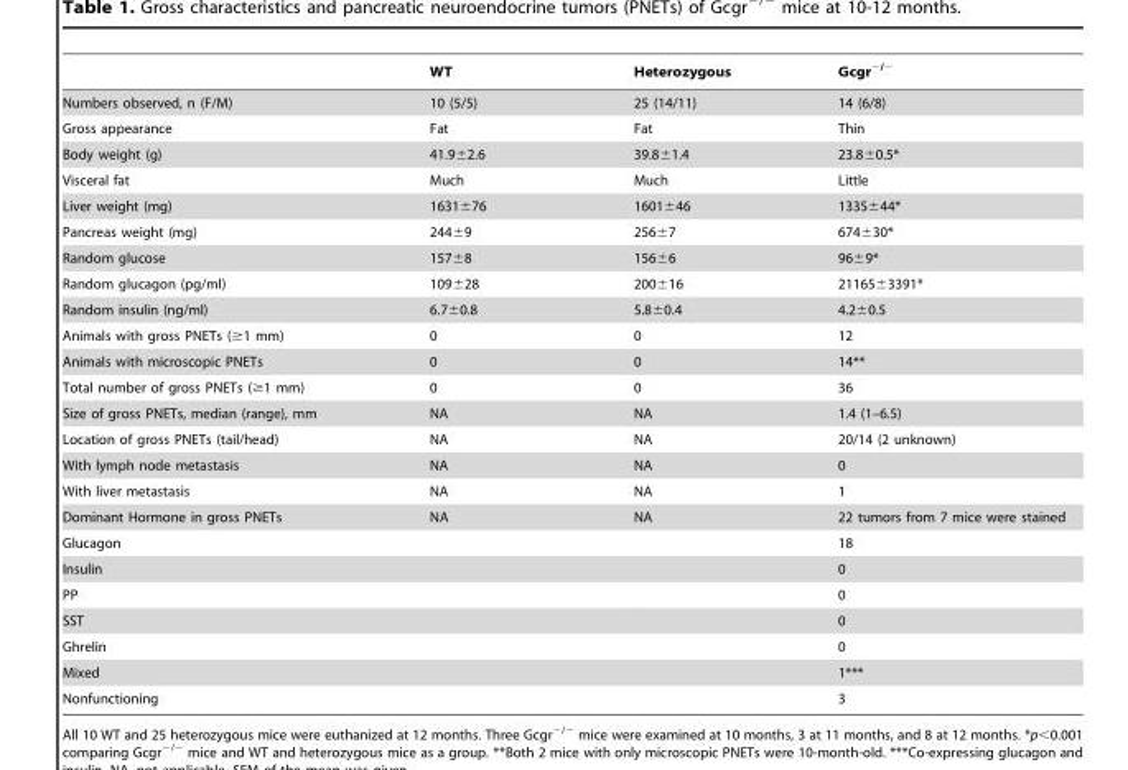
<table><thead><tr><td></td><td>WT</td><td>Heterozygous</td><td>Gcgr<sup>−/−</sup></td></tr></thead><tbody><tr><td>Numbers observed, n (F/M)</td><td>10 (5/5)</td><td>25 (14/11)</td><td>14 (6/8)</td></tr><tr><td>Gross appearance</td><td>Fat</td><td>Fat</td><td>Thin</td></tr><tr><td>Body weight (g)</td><td>41.9±2.6</td><td>39.8±1.4</td><td>23.8±0.5*</td></tr><tr><td>Visceral fat</td><td>Much</td><td>Much</td><td>Little</td></tr><tr><td>Liver weight (mg)</td><td>1631±76</td><td>1601±46</td><td>1335±44*</td></tr><tr><td>Pancreas weight (mg)</td><td>244±9</td><td>256±7</td><td>674±30*</td></tr><tr><td>Random glucose</td><td>157±8</td><td>156±6</td><td>96±9*</td></tr><tr><td>Random glucagon (pg/ml)</td><td>109±28</td><td>200±16</td><td>21165±3391*</td></tr><tr><td>Random insulin (ng/ml)</td><td>6.7±0.8</td><td>5.8±0.4</td><td>4.2±0.5</td></tr><tr><td>Animals with gross PNETs (≥1 mm)</td><td>0</td><td>0</td><td>12</td></tr><tr><td>Animals with microscopic PNETs</td><td>0</td><td>0</td><td>14**</td></tr><tr><td>Total number of gross PNETs (≥1 mm)</td><td>0</td><td>0</td><td>36</td></tr><tr><td>Size of gross PNETs, median (range), mm</td><td>NA</td><td>NA</td><td>1.4 (1–6.5)</td></tr><tr><td>Location of gross PNETs (tail/head)</td><td>NA</td><td>NA</td><td>20/14 (2 unknown)</td></tr><tr><td>With lymph node metastasis</td><td>NA</td><td>NA</td><td>0</td></tr><tr><td>With liver metastasis</td><td>NA</td><td>NA</td><td>1</td></tr><tr><td>Dominant Hormone in gross PNETs</td><td>NA</td><td>NA</td><td>22 tumors from 7 mice were stained</td></tr><tr><td>Glucagon</td><td></td><td></td><td>18</td></tr><tr><td>Insulin</td><td></td><td></td><td>0</td></tr><tr><td>PP</td><td></td><td></td><td>0</td></tr><tr><td>SST</td><td></td><td></td><td>0</td></tr><tr><td>Ghrelin</td><td></td><td></td><td>0</td></tr><tr><td>Mixed</td><td></td><td></td><td>1***</td></tr><tr><td>Nonfunctioning</td><td></td><td></td><td>3</td></tr></tbody></table>